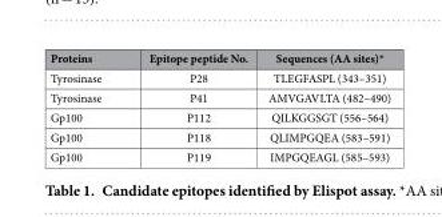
<table><thead><tr><td>Proteins</td><td>Epitope peptide No.</td><td>Sequences (AA sites)*</td></tr></thead><tbody><tr><td>Tyrosinase</td><td>P28</td><td>TLEGFASPL (343–351)</td></tr><tr><td>Tyrosinase</td><td>P41</td><td>AMVGAVLTA (482–490)</td></tr><tr><td>Gp100</td><td>P112</td><td>QILKGGSGT (556–564)</td></tr><tr><td>Gp100</td><td>P118</td><td>QLIMPGQEA (583–591)</td></tr><tr><td>Gp100</td><td>P119</td><td>IMPGQEAGL (585–593)</td></tr></tbody></table>